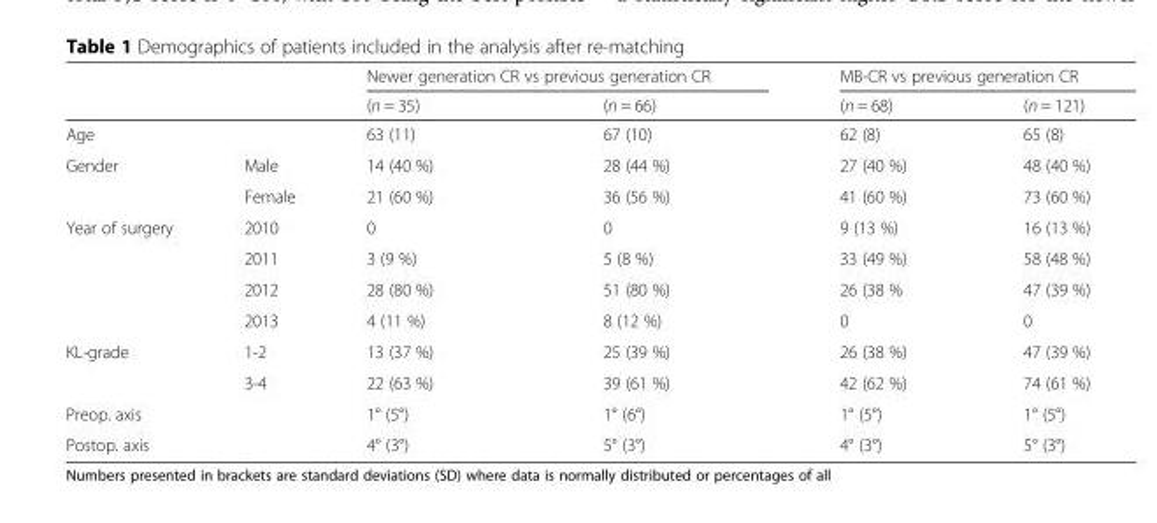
<table><thead><tr><td rowspan="2"></td><td rowspan="2"></td><td colspan="2">Newer generation CR vs previous generation CR</td><td colspan="2">MB-CR vs previous generation CR</td></tr><tr><td>(n = 35)</td><td>(n = 66)</td><td>(n = 68)</td><td>(n = 121)</td></tr></thead><tbody><tr><td>Age</td><td></td><td>63 (11)</td><td>67 (10)</td><td>62 (8)</td><td>65 (8)</td></tr><tr><td rowspan="2">Gender</td><td>Male</td><td>14 (40 %)</td><td>28 (44 %)</td><td>27 (40 %)</td><td>48 (40 %)</td></tr><tr><td>Female</td><td>21 (60 %)</td><td>36 (56 %)</td><td>41 (60 %)</td><td>73 (60 %)</td></tr><tr><td rowspan="4">Year of surgery</td><td>2010</td><td>0</td><td>0</td><td>9 (13 %)</td><td>16 (13 %)</td></tr><tr><td>2011</td><td>3 (9 %)</td><td>5 (8 %)</td><td>33 (49 %)</td><td>58 (48 %)</td></tr><tr><td>2012</td><td>28 (80 %)</td><td>51 (80 %)</td><td>26 (38 %</td><td>47 (39 %)</td></tr><tr><td>2013</td><td>4 (11 %)</td><td>8 (12 %)</td><td>0</td><td>0</td></tr><tr><td rowspan="2">KL-grade</td><td>1-2</td><td>13 (37 %)</td><td>25 (39 %)</td><td>26 (38 %)</td><td>47 (39 %)</td></tr><tr><td>3-4</td><td>22 (63 %)</td><td>39 (61 %)</td><td>42 (62 %)</td><td>74 (61 %)</td></tr><tr><td>Preop. axis</td><td></td><td>1° (5°)</td><td>1° (6°)</td><td>1° (5°)</td><td>1° (5°)</td></tr><tr><td>Postop. axis</td><td></td><td>4° (3°)</td><td>5° (3°)</td><td>4° (3°)</td><td>5° (3°)</td></tr></tbody></table>